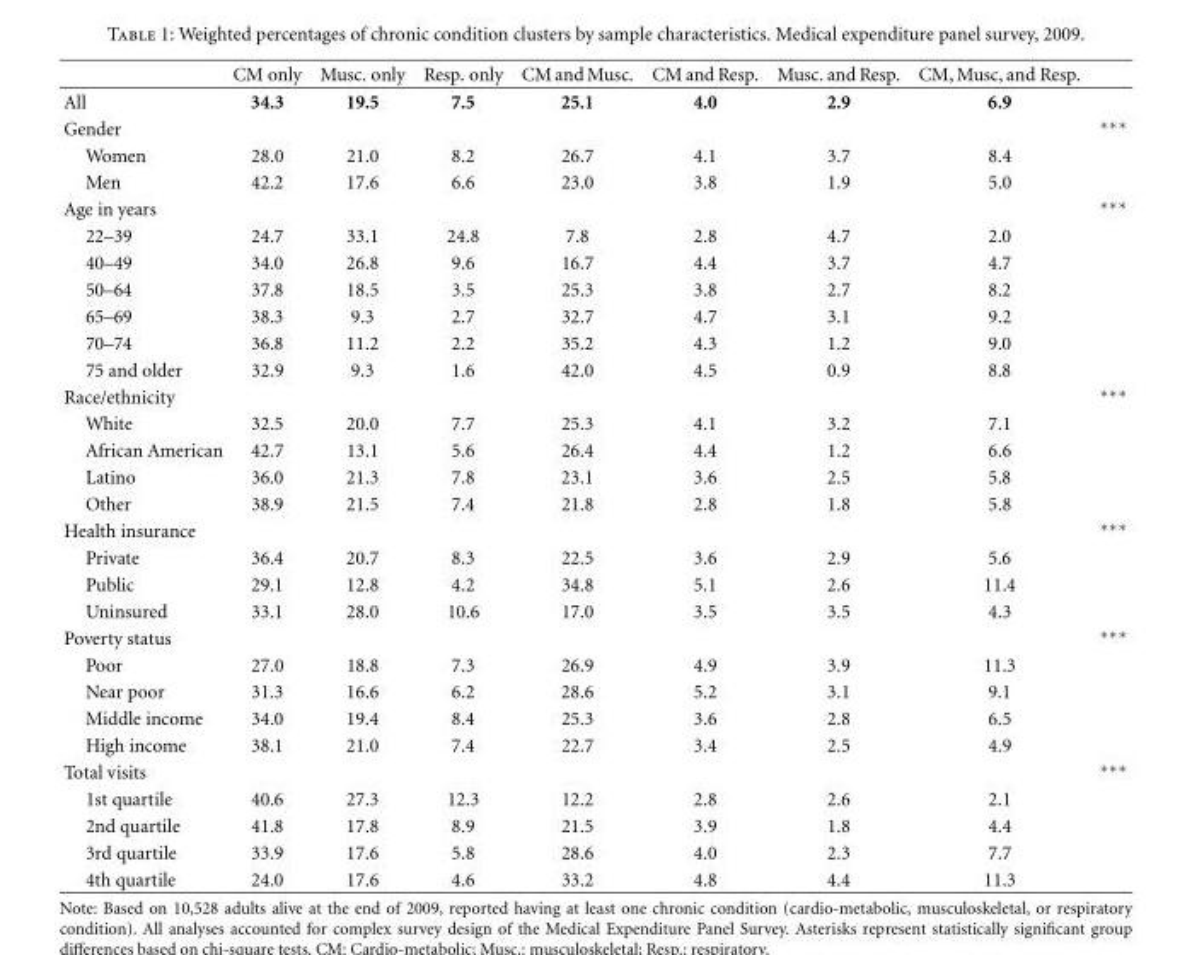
<table><thead><tr><td></td><td>CM only</td><td>Musc. only</td><td>Resp. only</td><td>CM and Musc.</td><td>CM and Resp.</td><td>Musc. and Resp.</td><td>CM, Musc, and Resp.</td><td></td></tr></thead><tbody><tr><td>All</td><td>34.3</td><td>19.5</td><td>7.5</td><td>25.1</td><td>4.0</td><td>2.9</td><td>6.9</td><td></td></tr><tr><td>Gender</td><td></td><td></td><td></td><td></td><td></td><td></td><td></td><td>∗∗∗</td></tr><tr><td>Women</td><td>28.0</td><td>21.0</td><td>8.2</td><td>26.7</td><td>4.1</td><td>3.7</td><td>8.4</td><td></td></tr><tr><td>Men</td><td>42.2</td><td>17.6</td><td>6.6</td><td>23.0</td><td>3.8</td><td>1.9</td><td>5.0</td><td></td></tr><tr><td>Age in years</td><td></td><td></td><td></td><td></td><td></td><td></td><td></td><td>∗∗∗</td></tr><tr><td>22–39</td><td>24.7</td><td>33.1</td><td>24.8</td><td>7.8</td><td>2.8</td><td>4.7</td><td>2.0</td><td></td></tr><tr><td>40–49</td><td>34.0</td><td>26.8</td><td>9.6</td><td>16.7</td><td>4.4</td><td>3.7</td><td>4.7</td><td></td></tr><tr><td>50–64</td><td>37.8</td><td>18.5</td><td>3.5</td><td>25.3</td><td>3.8</td><td>2.7</td><td>8.2</td><td></td></tr><tr><td>65–69</td><td>38.3</td><td>9.3</td><td>2.7</td><td>32.7</td><td>4.7</td><td>3.1</td><td>9.2</td><td></td></tr><tr><td>70–74</td><td>36.8</td><td>11.2</td><td>2.2</td><td>35.2</td><td>4.3</td><td>1.2</td><td>9.0</td><td></td></tr><tr><td>75 and older</td><td>32.9</td><td>9.3</td><td>1.6</td><td>42.0</td><td>4.5</td><td>0.9</td><td>8.8</td><td></td></tr><tr><td>Race/ethnicity</td><td></td><td></td><td></td><td></td><td></td><td></td><td></td><td>∗∗∗</td></tr><tr><td>White</td><td>32.5</td><td>20.0</td><td>7.7</td><td>25.3</td><td>4.1</td><td>3.2</td><td>7.1</td><td></td></tr><tr><td>African American</td><td>42.7</td><td>13.1</td><td>5.6</td><td>26.4</td><td>4.4</td><td>1.2</td><td>6.6</td><td></td></tr><tr><td>Latino</td><td>36.0</td><td>21.3</td><td>7.8</td><td>23.1</td><td>3.6</td><td>2.5</td><td>5.8</td><td></td></tr><tr><td>Other</td><td>38.9</td><td>21.5</td><td>7.4</td><td>21.8</td><td>2.8</td><td>1.8</td><td>5.8</td><td></td></tr><tr><td>Health insurance</td><td></td><td></td><td></td><td></td><td></td><td></td><td></td><td>∗∗∗</td></tr><tr><td>Private</td><td>36.4</td><td>20.7</td><td>8.3</td><td>22.5</td><td>3.6</td><td>2.9</td><td>5.6</td><td></td></tr><tr><td>Public</td><td>29.1</td><td>12.8</td><td>4.2</td><td>34.8</td><td>5.1</td><td>2.6</td><td>11.4</td><td></td></tr><tr><td>Uninsured</td><td>33.1</td><td>28.0</td><td>10.6</td><td>17.0</td><td>3.5</td><td>3.5</td><td>4.3</td><td></td></tr><tr><td>Poverty status</td><td></td><td></td><td></td><td></td><td></td><td></td><td></td><td>∗∗∗</td></tr><tr><td>Poor</td><td>27.0</td><td>18.8</td><td>7.3</td><td>26.9</td><td>4.9</td><td>3.9</td><td>11.3</td><td></td></tr><tr><td>Near poor</td><td>31.3</td><td>16.6</td><td>6.2</td><td>28.6</td><td>5.2</td><td>3.1</td><td>9.1</td><td></td></tr><tr><td>Middle income</td><td>34.0</td><td>19.4</td><td>8.4</td><td>25.3</td><td>3.6</td><td>2.8</td><td>6.5</td><td></td></tr><tr><td>High income</td><td>38.1</td><td>21.0</td><td>7.4</td><td>22.7</td><td>3.4</td><td>2.5</td><td>4.9</td><td></td></tr><tr><td>Total visits</td><td></td><td></td><td></td><td></td><td></td><td></td><td></td><td>∗∗∗</td></tr><tr><td>1st quartile</td><td>40.6</td><td>27.3</td><td>12.3</td><td>12.2</td><td>2.8</td><td>2.6</td><td>2.1</td><td></td></tr><tr><td>2nd quartile</td><td>41.8</td><td>17.8</td><td>8.9</td><td>21.5</td><td>3.9</td><td>1.8</td><td>4.4</td><td></td></tr><tr><td>3rd quartile</td><td>33.9</td><td>17.6</td><td>5.8</td><td>28.6</td><td>4.0</td><td>2.3</td><td>7.7</td><td></td></tr><tr><td>4th quartile</td><td>24.0</td><td>17.6</td><td>4.6</td><td>33.2</td><td>4.8</td><td>4.4</td><td>11.3</td><td></td></tr></tbody></table>